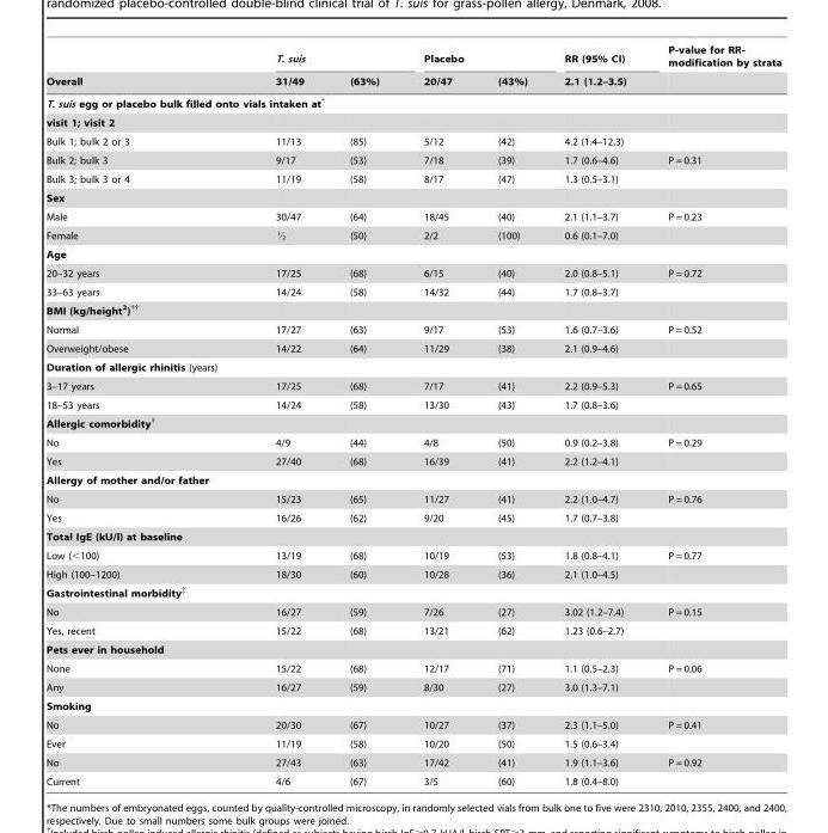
<table><thead><tr><td rowspan="2">Overall</td><td colspan="2">T. suis</td><td colspan="2">Placebo</td><td rowspan="2">RR (95% CI) 2.1 (1.2–3.5)</td><td rowspan="2">P-value for RR- modification by strata</td></tr><tr><td>31/49</td><td>(63%)</td><td>20/47</td><td>(43%)</td></tr></thead><tbody><tr><td colspan="7">T. suis egg or placebo bulk filled onto vials intaken at*</td></tr><tr><td colspan="7">visit 1; visit 2</td></tr><tr><td>Bulk 1; bulk 2 or 3</td><td>11/13</td><td>(85)</td><td>5/12</td><td>(42)</td><td>4.2 (1.4–12.3)</td><td></td></tr><tr><td>Bulk 2; bulk 3</td><td>9/17</td><td>(53)</td><td>7/18</td><td>(39)</td><td>1.7 (0.6–4.6)</td><td>P = 0.31</td></tr><tr><td>Bulk 3; bulk 3 or 4</td><td>11/19</td><td>(58)</td><td>8/17</td><td>(47)</td><td>1.3 (0.5–3.1)</td><td></td></tr><tr><td colspan="7">Sex</td></tr><tr><td>Male</td><td>30/47</td><td>(64)</td><td>18/45</td><td>(40)</td><td>2.1 (1.1–3.7)</td><td>P = 0.23</td></tr><tr><td>Female</td><td>K</td><td>(50)</td><td>2/2</td><td>(100)</td><td>0.6 (0.1–7.0)</td><td></td></tr><tr><td colspan="7">Age</td></tr><tr><td>20–32 years</td><td>17/25</td><td>(68)</td><td>6/15</td><td>(40)</td><td>2.0 (0.8–5.1)</td><td>P = 0.72</td></tr><tr><td>33–63 years</td><td>14/24</td><td>(58)</td><td>14/32</td><td>(44)</td><td>1.7 (0.8–3.7)</td><td></td></tr><tr><td colspan="7">BMI (kg/height<sup>2</sup>)††</td></tr><tr><td>Normal</td><td>17/27</td><td>(63)</td><td>9/17</td><td>(53)</td><td>1.6 (0.7–3.6)</td><td>P = 0.52</td></tr><tr><td>Overweight/obese</td><td>14/22</td><td>(64)</td><td>11/29</td><td>(38)</td><td>2.1 (0.9–4.6)</td><td></td></tr><tr><td colspan="7">Duration of allergic rhinitis (years)</td></tr><tr><td>3–17 years</td><td>17/25</td><td>(68)</td><td>7/17</td><td>(41)</td><td>2.2 (0.9–5.3)</td><td>P = 0.65</td></tr><tr><td>18–53 years</td><td>14/24</td><td>(58)</td><td>13/30</td><td>(43)</td><td>1.7 (0.8–3.6)</td><td></td></tr><tr><td colspan="7">Allergic comorbidity†</td></tr><tr><td>No</td><td>4/9</td><td>(44)</td><td>4/8</td><td>(50)</td><td>0.9 (0.2–3.8)</td><td>P = 0.29</td></tr><tr><td>Yes</td><td>27/40</td><td>(68)</td><td>16/39</td><td>(41)</td><td>2.2 (1.2–4.1)</td><td></td></tr><tr><td colspan="7">Allergy of mother and/or father</td></tr><tr><td>No</td><td>15/23</td><td>(65)</td><td>11/27</td><td>(41)</td><td>2.2 (1.0–4.7)</td><td>P = 0.76</td></tr><tr><td>Yes</td><td>16/26</td><td>(62)</td><td>9/20</td><td>(45)</td><td>1.7 (0.7–3.8)</td><td></td></tr><tr><td colspan="7">Total IgE (kU/l) at baseline</td></tr><tr><td>Low (&lt;100)</td><td>13/19</td><td>(68)</td><td>10/19</td><td>(53)</td><td>1.8 (0.8–4.1)</td><td>P = 0.77</td></tr><tr><td>High (100–1200)</td><td>18/30</td><td>(60)</td><td>10/28</td><td>(36)</td><td>2.1 (1.0–4.5)</td><td></td></tr><tr><td colspan="7">Gastrointestinal morbidity‡</td></tr><tr><td>No</td><td>16/27</td><td>(59)</td><td>7/26</td><td>(27)</td><td>3.02 (1.2–7.4)</td><td>P = 0.15</td></tr><tr><td>Yes, recent</td><td>15/22</td><td>(68)</td><td>13/21</td><td>(62)</td><td>1.23 (0.6–2.7)</td><td></td></tr><tr><td colspan="7">Pets ever in household</td></tr><tr><td>None</td><td>15/22</td><td>(68)</td><td>12/17</td><td>(71)</td><td>1.1 (0.5–2.3)</td><td>P = 0.06</td></tr><tr><td>Any</td><td>16/27</td><td>(59)</td><td>8/30</td><td>(27)</td><td>3.0 (1.3–7.1)</td><td></td></tr><tr><td colspan="7">Smoking</td></tr><tr><td>No</td><td>20/30</td><td>(67)</td><td>10/27</td><td>(37)</td><td>2.3 (1.1–5.0)</td><td>P = 0.41</td></tr><tr><td>Ever</td><td>11/19</td><td>(58)</td><td>10/20</td><td>(50)</td><td>1.5 (0.6–3.4)</td><td></td></tr><tr><td>No</td><td>27/43</td><td>(63)</td><td>17/42</td><td>(41)</td><td>1.9 (1.1–3.6)</td><td>P = 0.92</td></tr><tr><td>Current</td><td>4/6</td><td>(67)</td><td>3/5</td><td>(60)</td><td>1.8 (0.4–8.0)</td><td></td></tr></tbody></table>